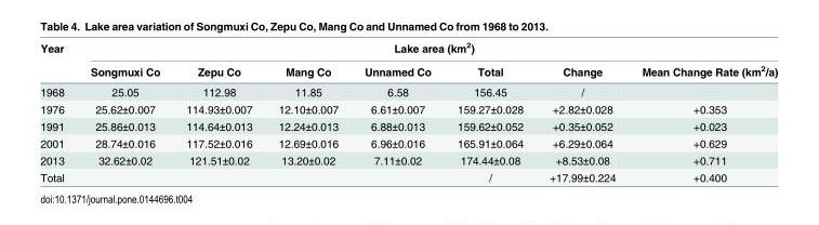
<table><thead><tr><td rowspan="2">Year</td><td colspan="7">Lake area (km<sup>2</sup>)</td></tr><tr><td>Songmuxi Co</td><td>Zepu Co</td><td>Mang Co</td><td>Unnamed Co</td><td>Total</td><td>Change</td><td>Mean Change Rate (km<sup>2</sup>/a)</td></tr></thead><tbody><tr><td>1968</td><td>25.05</td><td>112.98</td><td>11.85</td><td>6.58</td><td>156.45</td><td>/</td><td></td></tr><tr><td>1976</td><td>25.62±0.007</td><td>114.93±0.007</td><td>12.10±0.007</td><td>6.61±0.007</td><td>159.27±0.028</td><td>+2.82±0.028</td><td>+0.353</td></tr><tr><td>1991</td><td>25.86±0.013</td><td>114.64±0.013</td><td>12.24±0.013</td><td>6.88±0.013</td><td>159.62±0.052</td><td>+0.35±0.052</td><td>+0.023</td></tr><tr><td>2001</td><td>28.74±0.016</td><td>117.52±0.016</td><td>12.69±0.016</td><td>6.96±0.016</td><td>165.91±0.064</td><td>+6.29±0.064</td><td>+0.629</td></tr><tr><td>2013</td><td>32.62±0.02</td><td>121.51±0.02</td><td>13.20±0.02</td><td>7.11±0.02</td><td>174.44±0.08</td><td>+8.53±0.08</td><td>+0.711</td></tr><tr><td>Total</td><td></td><td></td><td></td><td></td><td>/</td><td>+17.99±0.224</td><td>+0.400</td></tr></tbody></table>